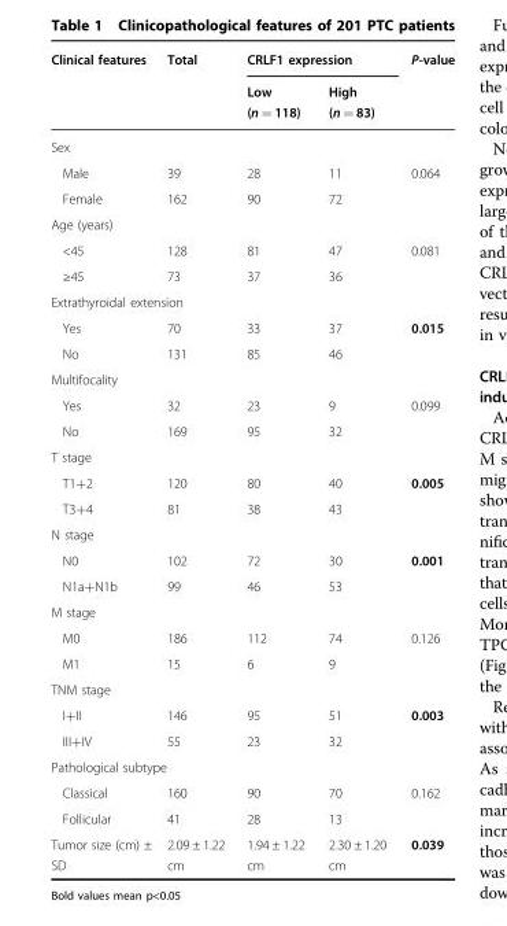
<table><thead><tr><td rowspan="2">Clinical features</td><td rowspan="2">Total</td><td colspan="2">CRLF1 expression</td><td rowspan="2">P-value</td></tr><tr><td>Low (n = 118)</td><td>High (n = 83)</td></tr></thead><tbody><tr><td colspan="5">Sex</td></tr><tr><td>Male</td><td>39</td><td>28</td><td>11</td><td>0.064</td></tr><tr><td>Female</td><td>162</td><td>90</td><td>72</td><td></td></tr><tr><td colspan="5">Age (years)</td></tr><tr><td>&lt;45</td><td>128</td><td>81</td><td>47</td><td>0.081</td></tr><tr><td>≥45</td><td>73</td><td>37</td><td>36</td><td></td></tr><tr><td colspan="5">Extrathyroidal extension</td></tr><tr><td>Yes</td><td>70</td><td>33</td><td>37</td><td>0.015</td></tr><tr><td>No</td><td>131</td><td>85</td><td>46</td><td></td></tr><tr><td colspan="5">Multifocality</td></tr><tr><td>Yes</td><td>32</td><td>23</td><td>9</td><td>0.099</td></tr><tr><td>No</td><td>169</td><td>95</td><td>32</td><td></td></tr><tr><td colspan="5">T stage</td></tr><tr><td>T1+2</td><td>120</td><td>80</td><td>40</td><td>0.005</td></tr><tr><td>T3+4</td><td>81</td><td>38</td><td>43</td><td></td></tr><tr><td colspan="5">N stage</td></tr><tr><td>N0</td><td>102</td><td>72</td><td>30</td><td>0.001</td></tr><tr><td>N1a+N1b</td><td>99</td><td>46</td><td>53</td><td></td></tr><tr><td colspan="5">M stage</td></tr><tr><td>M0</td><td>186</td><td>112</td><td>74</td><td>0.126</td></tr><tr><td>M1</td><td>15</td><td>6</td><td>9</td><td></td></tr><tr><td colspan="5">TNM stage</td></tr><tr><td>I+II</td><td>146</td><td>95</td><td>51</td><td>0.003</td></tr><tr><td>III+IV</td><td>55</td><td>23</td><td>32</td><td></td></tr><tr><td colspan="5">Pathological subtype</td></tr><tr><td>Classical</td><td>160</td><td>90</td><td>70</td><td>0.162</td></tr><tr><td>Follicular</td><td>41</td><td>28</td><td>13</td><td></td></tr><tr><td>Tumor size (cm) ± SD</td><td>2.09 ± 1.22 cm</td><td>1.94 ± 1.22 cm</td><td>2.30 ± 1.20 cm</td><td>0.039</td></tr></tbody></table>